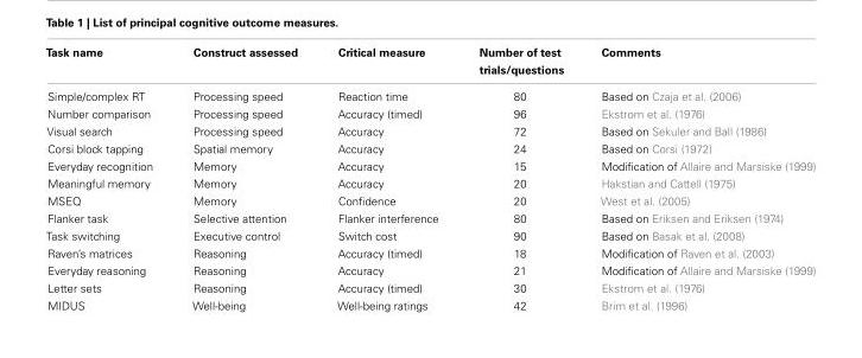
<table><thead><tr><td>Task name</td><td>Construct assessed</td><td>Critical measure</td><td>Number of test trials/questions</td><td>Comments</td></tr></thead><tbody><tr><td>Simple/complex RT</td><td>Processing speed</td><td>Reaction time</td><td>80</td><td>Based on Czaja et al. (2006)</td></tr><tr><td>Number comparison</td><td>Processing speed</td><td>Accuracy (timed)</td><td>96</td><td>Ekstrom et al. (1976)</td></tr><tr><td>Visual search</td><td>Processing speed</td><td>Accuracy</td><td>72</td><td>Based on Sekuler and Ball (1986)</td></tr><tr><td>Corsi block tapping</td><td>Spatial memory</td><td>Accuracy</td><td>24</td><td>Based on Corsi (1972)</td></tr><tr><td>Everyday recognition</td><td>Memory</td><td>Accuracy</td><td>15</td><td>Modification of Allaire and Marsiske (1999)</td></tr><tr><td>Meaningful memory</td><td>Memory</td><td>Accuracy</td><td>20</td><td>Hakstian and Cattell (1975)</td></tr><tr><td>MSEQ</td><td>Memory</td><td>Confidence</td><td>20</td><td>West et al. (2005)</td></tr><tr><td>Flanker task</td><td>Selective attention</td><td>Flanker interference</td><td>80</td><td>Based on Eriksen and Eriksen (1974)</td></tr><tr><td>Task switching</td><td>Executive control</td><td>Switch cost</td><td>90</td><td>Based on Basak et al. (2008)</td></tr><tr><td>Raven’s matrices</td><td>Reasoning</td><td>Accuracy (timed)</td><td>18</td><td>Modification of Raven et al. (2003)</td></tr><tr><td>Everyday reasoning</td><td>Reasoning</td><td>Accuracy</td><td>21</td><td>Modification of Allaire and Marsiske (1999)</td></tr><tr><td>Letter sets</td><td>Reasoning</td><td>Accuracy (timed)</td><td>30</td><td>Ekstrom et al. (1976)</td></tr><tr><td>MIDUS</td><td>Well-being</td><td>Well-being ratings</td><td>42</td><td>Brim et al. (1996)</td></tr></tbody></table>